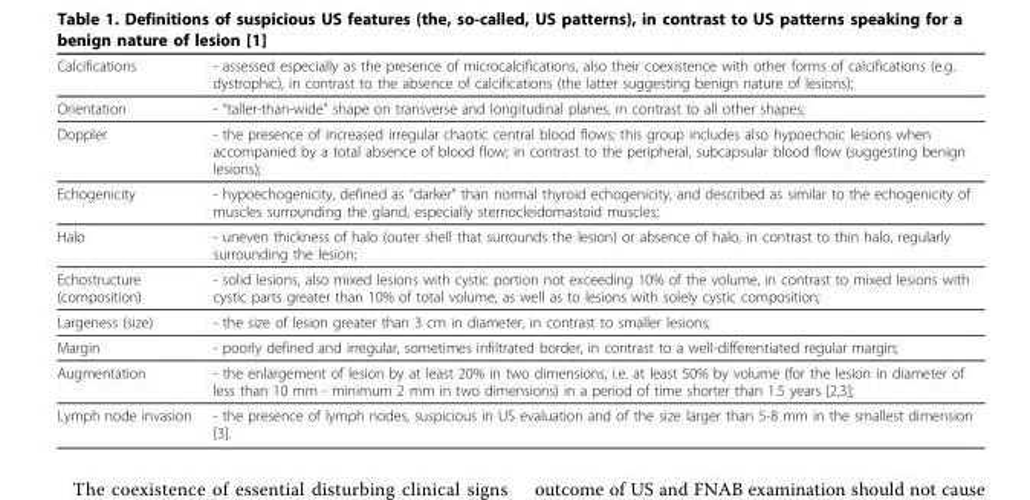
<table><thead><tr><td>Calcifications</td><td>- assessed especially as the presence of microcalcifications, also their coexistence with other forms of calcifications (e.g. dystrophic), in contrast to the absence of calcifications (the latter suggesting benign nature of lesions);</td></tr></thead><tbody><tr><td>Orientation</td><td>- “taller-than-wide” shape on transverse and longitudinal planes, in contrast to all other shapes;</td></tr><tr><td>Doppler</td><td>- the presence of increased irregular chaotic central blood flows; this group includes also hypoechoic lesions when accompanied by a total absence of blood flow; in contrast to the peripheral, subcapsular blood flow (suggesting benign lesions);</td></tr><tr><td>Echogenicity</td><td>- hypoechogenicity, defined as “darker” than normal thyroid echogenicity, and described as similar to the echogenicity of muscles surrounding the gland, especially sternocleidomastoid muscles;</td></tr><tr><td>Halo</td><td>- uneven thickness of halo (outer shell that surrounds the lesion) or absence of halo, in contrast to thin halo, regularly surrounding the lesion;</td></tr><tr><td>Echostructure (composition)</td><td>- solid lesions, also mixed lesions with cystic portion not exceeding 10% of the volume, in contrast to mixed lesions with cystic parts greater than 10% of total volume, as well as to lesions with solely cystic composition;</td></tr><tr><td>Largeness (size)</td><td>- the size of lesion greater than 3 cm in diameter, in contrast to smaller lesions;</td></tr><tr><td>Margin</td><td>- poorly defined and irregular, sometimes infiltrated border, in contrast to a well-differentiated regular margin;</td></tr><tr><td>Augmentation</td><td>- the enlargement of lesion by at least 20% in two dimensions, i.e. at least 50% by volume (for the lesion in diameter of less than 10 mm - minimum 2 mm in two dimensions) in a period of time shorter than 1.5 years [2,3];</td></tr><tr><td>Lymph node invasion</td><td>- the presence of lymph nodes, suspicious in US evaluation and of the size larger than 5-8 mm in the smallest dimension [3].</td></tr></tbody></table>